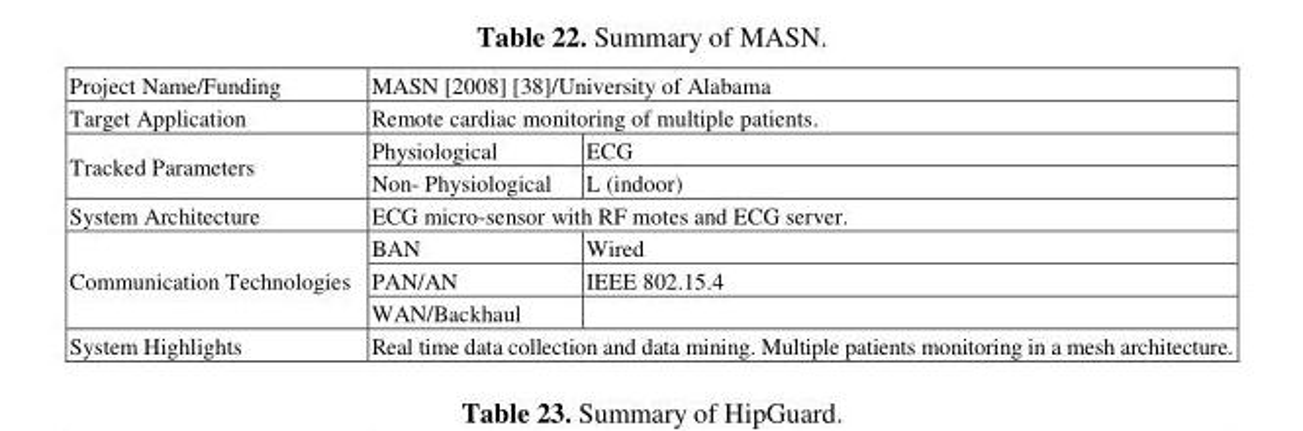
<table><tbody><tr><td>Project Name/Funding</td><td colspan="2">MASN [2008] [38]/University of Alabama</td></tr><tr><td>Target Application</td><td colspan="2">Remote cardiac monitoring of multiple patients.</td></tr><tr><td rowspan="2">Tracked Parameters</td><td>Physiological</td><td>ECG</td></tr><tr><td>Non- Physiological</td><td>L (indoor)</td></tr><tr><td>System Architecture</td><td colspan="2">ECG micro-sensor with RF motes and ECG server.</td></tr><tr><td rowspan="3">Communication Technologies</td><td>BAN</td><td>Wired</td></tr><tr><td>PAN/AN</td><td>IEEE 802.15.4</td></tr><tr><td>WAN/Backhaul</td><td></td></tr><tr><td>System Highlights</td><td colspan="2">Real time data collection and data mining. Multiple patients monitoring in a mesh architecture.</td></tr></tbody></table>